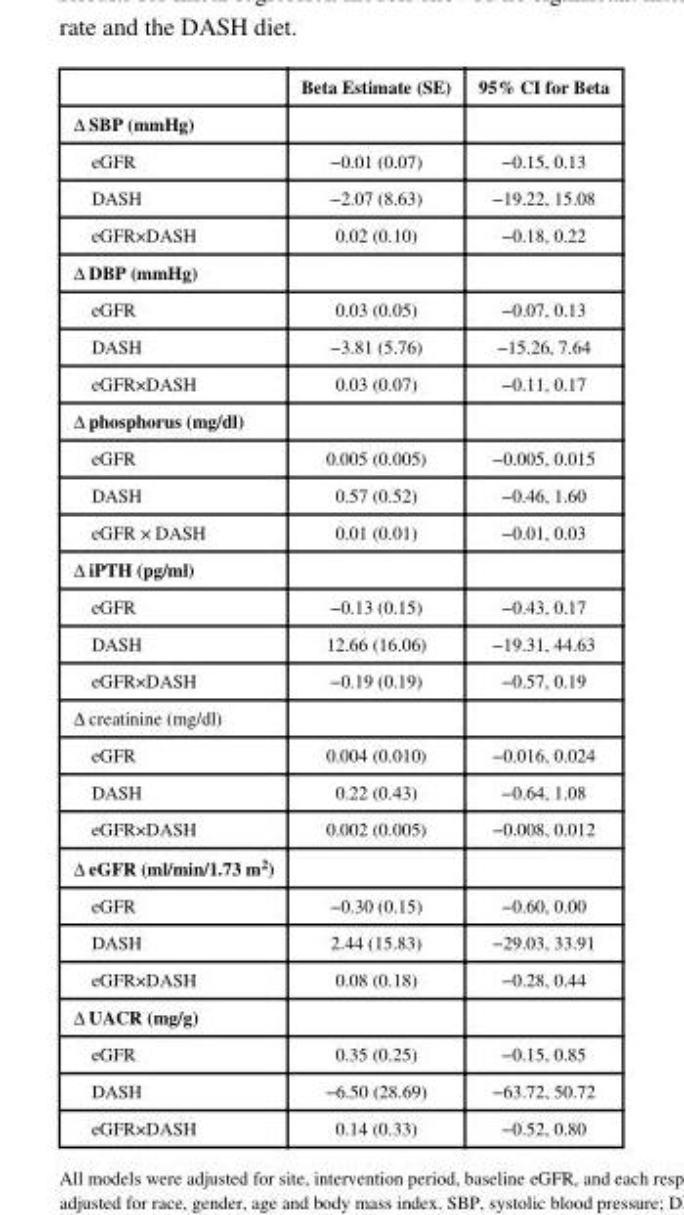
<table><thead><tr><td></td><td>Beta Estimate (SE)</td><td>95% CI for Beta</td></tr></thead><tbody><tr><td colspan="3">Δ SBP (mmHg)</td></tr><tr><td>eGFR</td><td>−0.01 (0.07)</td><td>−0.15, 0.13</td></tr><tr><td>DASH</td><td>−2.07 (8.63)</td><td>−19.22, 15.08</td></tr><tr><td>eGFR×DASH</td><td>0.02 (0.10)</td><td>−0.18, 0.22</td></tr><tr><td colspan="3">Δ DBP (mmHg)</td></tr><tr><td>eGFR</td><td>0.03 (0.05)</td><td>−0.07, 0.13</td></tr><tr><td>DASH</td><td>−3.81 (5.76)</td><td>−15.26, 7.64</td></tr><tr><td>eGFR×DASH</td><td>0.03 (0.07)</td><td>−0.11, 0.17</td></tr><tr><td colspan="3">Δ phosphorus (mg/dl)</td></tr><tr><td>eGFR</td><td>0.005 (0.005)</td><td>−0.005, 0.015</td></tr><tr><td>DASH</td><td>0.57 (0.52)</td><td>−0.46, 1.60</td></tr><tr><td>eGFR × DASH</td><td>0.01 (0.01)</td><td>−0.01, 0.03</td></tr><tr><td colspan="3">Δ iPTH (pg/ml)</td></tr><tr><td>eGFR</td><td>−0.13 (0.15)</td><td>−0.43, 0.17</td></tr><tr><td>DASH</td><td>12.66 (16.06)</td><td>−19.31, 44.63</td></tr><tr><td>eGFR×DASH</td><td>−0.19 (0.19)</td><td>−0.57, 0.19</td></tr><tr><td colspan="3">Δ creatinine (mg/dl)</td></tr><tr><td>eGFR</td><td>0.004 (0.010)</td><td>−0.016, 0.024</td></tr><tr><td>DASH</td><td>0.22 (0.43)</td><td>−0.64, 1.08</td></tr><tr><td>eGFR×DASH</td><td>0.002 (0.005)</td><td>−0.008, 0.012</td></tr><tr><td colspan="3">Δ eGFR (ml/min/1.73 m<sup>2</sup>)</td></tr><tr><td>eGFR</td><td>−0.30 (0.15)</td><td>−0.60, 0.00</td></tr><tr><td>DASH</td><td>2.44 (15.83)</td><td>−29.03, 33.91</td></tr><tr><td>eGFR×DASH</td><td>0.08 (0.18)</td><td>−0.28, 0.44</td></tr><tr><td colspan="3">Δ UACR (mg/g)</td></tr><tr><td>eGFR</td><td>0.35 (0.25)</td><td>−0.15, 0.85</td></tr><tr><td>DASH</td><td>−6.50 (28.69)</td><td>−63.72, 50.72</td></tr><tr><td>eGFR×DASH</td><td>0.14 (0.33)</td><td>−0.52, 0.80</td></tr></tbody></table>